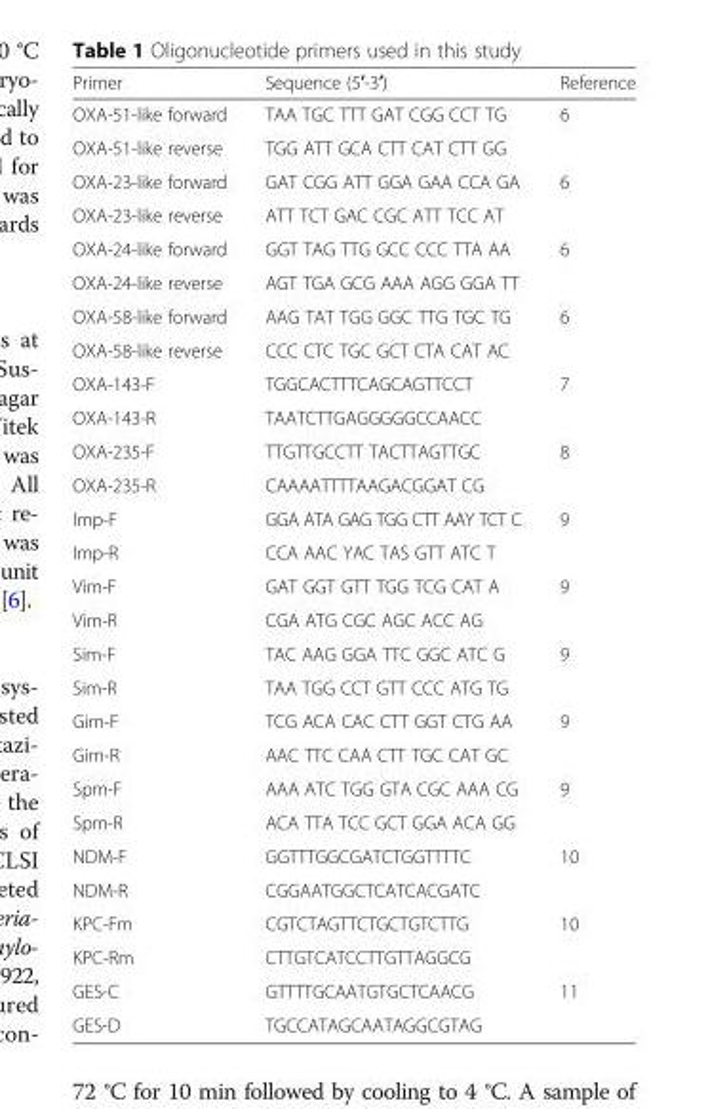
<table><thead><tr><td>Primer</td><td>Sequence (5′-3′)</td><td>Reference</td></tr></thead><tbody><tr><td>OXA-51-like forward</td><td>TAA TGC TTT GAT CGG CCT TG</td><td>6</td></tr><tr><td>OXA-51-like reverse</td><td>TGG ATT GCA CTT CAT CTT GG</td><td></td></tr><tr><td>OXA-23-like forward</td><td>GAT CGG ATT GGA GAA CCA GA</td><td>6</td></tr><tr><td>OXA-23-like reverse</td><td>ATT TCT GAC CGC ATT TCC AT</td><td></td></tr><tr><td>OXA-24-like forward</td><td>GGT TAG TTG GCC CCC TTA AA</td><td>6</td></tr><tr><td>OXA-24-like reverse</td><td>AGT TGA GCG AAA AGG GGA TT</td><td></td></tr><tr><td>OXA-58-like forward</td><td>AAG TAT TGG GGC TTG TGC TG</td><td>6</td></tr><tr><td>OXA-58-like reverse</td><td>CCC CTC TGC GCT CTA CAT AC</td><td></td></tr><tr><td>OXA-143-F</td><td>TGGCACTTTCAGCAGTTCCT</td><td>7</td></tr><tr><td>OXA-143-R</td><td>TAATCTTGAGGGGGCCAACC</td><td></td></tr><tr><td>OXA-235-F</td><td>TTGTTGCCTT TACTTAGTTGC</td><td>8</td></tr><tr><td>OXA-235-R</td><td>CAAAATTTTAAGACGGAT CG</td><td></td></tr><tr><td>Imp-F</td><td>GGA ATA GAG TGG CTT AAY TCT C</td><td>9</td></tr><tr><td>Imp-R</td><td>CCA AAC YAC TAS GTT ATC T</td><td></td></tr><tr><td>Vim-F</td><td>GAT GGT GTT TGG TCG CAT A</td><td>9</td></tr><tr><td>Vim-R</td><td>CGA ATG CGC AGC ACC AG</td><td></td></tr><tr><td>Sim-F</td><td>TAC AAG GGA TTC GGC ATC G</td><td>9</td></tr><tr><td>Sim-R</td><td>TAA TGG CCT GTT CCC ATG TG</td><td></td></tr><tr><td>Gim-F</td><td>TCG ACA CAC CTT GGT CTG AA</td><td>9</td></tr><tr><td>Gim-R</td><td>AAC TTC CAA CTT TGC CAT GC</td><td></td></tr><tr><td>Spm-F</td><td>AAA ATC TGG GTA CGC AAA CG</td><td>9</td></tr><tr><td>Spm-R</td><td>ACA TTA TCC GCT GGA ACA GG</td><td></td></tr><tr><td>NDM-F</td><td>GGTTTGGCGATCTGGTTTTC</td><td>10</td></tr><tr><td>NDM-R</td><td>CGGAATGGCTCATCACGATC</td><td></td></tr><tr><td>KPC-Fm</td><td>CGTCTAGTTCTGCTGTCTTG</td><td>10</td></tr><tr><td>KPC-Rm</td><td>CTTGTCATCCTTGTTAGGCG</td><td></td></tr><tr><td>GES-C</td><td>GTTTTGCAATGTGCTCAACG</td><td>11</td></tr><tr><td>GES-D</td><td>TGCCATAGCAATAGGCGTAG</td><td></td></tr></tbody></table>